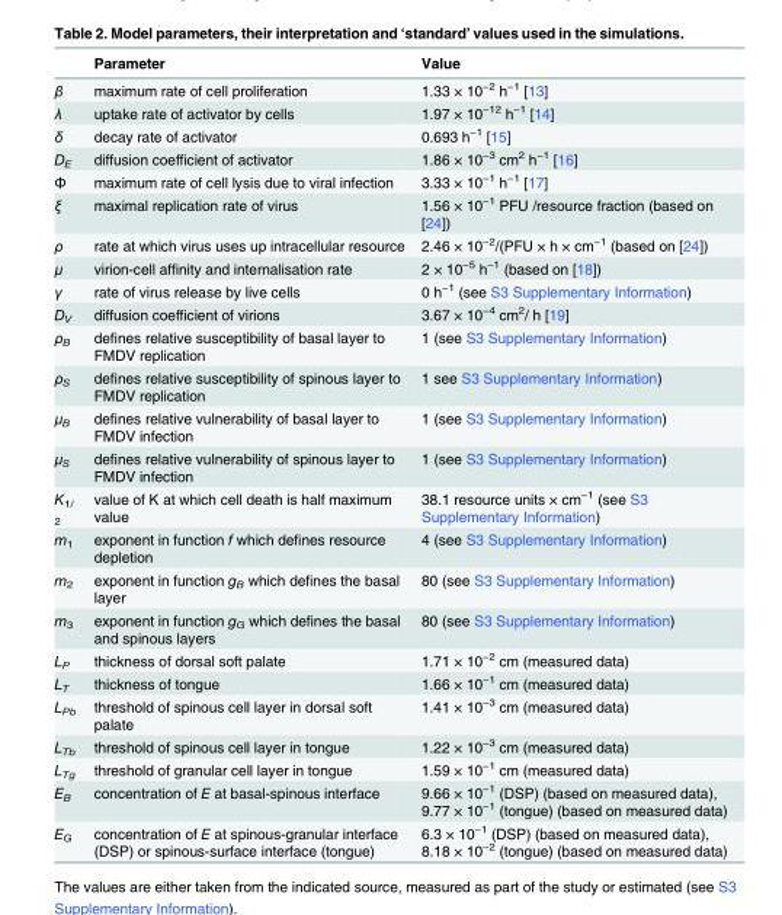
<table><thead><tr><td></td><td>Parameter</td><td>Value</td></tr></thead><tbody><tr><td>β</td><td>maximum rate of cell proliferation</td><td>1.33 × 10<sup>−2</sup> h<sup>−1</sup> [13]</td></tr><tr><td>λ</td><td>uptake rate of activator by cells</td><td>1.97 × 10<sup>−12</sup> h<sup>−1</sup> [14]</td></tr><tr><td>δ</td><td>decay rate of activator</td><td>0.693 h<sup>−1</sup> [15]</td></tr><tr><td>D<sub>E</sub></td><td>diffusion coefficient of activator</td><td>1.86 × 10<sup>−3</sup> cm<sup>2</sup> h<sup>−1</sup> [16]</td></tr><tr><td>Φ</td><td>maximum rate of cell lysis due to viral infection</td><td>3.33 × 10<sup>−1</sup> h<sup>−1</sup> [17]</td></tr><tr><td>ξ</td><td>maximal replication rate of virus</td><td>1.56 × 10<sup>−1</sup> PFU /resource fraction (based on [24])</td></tr><tr><td>ρ</td><td>rate at which virus uses up intracellular resource</td><td>2.46 × 10<sup>−2</sup>/(PFU × h × cm<sup>−1</sup> (based on [24])</td></tr><tr><td>μ</td><td>virion-cell affinity and internalisation rate</td><td>2 × 10<sup>−5</sup> h<sup>−1</sup> (based on [18])</td></tr><tr><td>γ</td><td>rate of virus release by live cells</td><td>0 h<sup>−1</sup> (see S3 Supplementary Information)</td></tr><tr><td>D<sub>V</sub></td><td>diffusion coefficient of virions</td><td>3.67 × 10<sup>−4</sup> cm<sup>2</sup>/ h [19]</td></tr><tr><td>ρ<sub>B</sub></td><td>defines relative susceptibility of basal layer to FMDV replication</td><td>1 (see S3 Supplementary Information)</td></tr><tr><td>ρ<sub>S</sub></td><td>defines relative susceptibility of spinous layer to FMDV replication</td><td>1 see S3 Supplementary Information)</td></tr><tr><td>μ<sub>B</sub></td><td>defines relative vulnerability of basal layer to FMDV infection</td><td>1 (see S3 Supplementary Information)</td></tr><tr><td>μ<sub>S</sub></td><td>defines relative vulnerability of spinous layer to FMDV infection</td><td>1 (see S3 Supplementary Information)</td></tr><tr><td>K<sub>1/ 2</sub></td><td>value of K at which cell death is half maximum value</td><td>38.1 resource units × cm<sup>−1</sup> (see S3 Supplementary Information)</td></tr><tr><td>m<sub>1</sub></td><td>exponent in function f which defines resource depletion</td><td>4 (see S3 Supplementary Information)</td></tr><tr><td>m<sub>2</sub></td><td>exponent in function g<sub>B</sub> which defines the basal layer</td><td>80 (see S3 Supplementary Information)</td></tr><tr><td>m<sub>3</sub></td><td>exponent in function g<sub>G</sub> which defines the basal and spinous layers</td><td>80 (see S3 Supplementary Information)</td></tr><tr><td>L<sub>P</sub></td><td>thickness of dorsal soft palate</td><td>1.71 × 10<sup>−2</sup> cm (measured data)</td></tr><tr><td>L<sub>T</sub></td><td>thickness of tongue</td><td>1.66 × 10<sup>−1</sup> cm (measured data)</td></tr><tr><td>L<sub>Pb</sub></td><td>threshold of spinous cell layer in dorsal soft palate</td><td>1.41 × 10<sup>−3</sup> cm (measured data)</td></tr><tr><td>L<sub>Tb</sub></td><td>threshold of spinous cell layer in tongue</td><td>1.22 × 10<sup>−3</sup> cm (measured data)</td></tr><tr><td>L<sub>Tg</sub></td><td>threshold of granular cell layer in tongue</td><td>1.59 × 10<sup>−1</sup> cm (measured data)</td></tr><tr><td>E<sub>B</sub></td><td>concentration of E at basal-spinous interface</td><td>9.66 × 10<sup>−1</sup> (DSP) (based on measured data), 9.77 × 10<sup>−1</sup> (tongue) (based on measured data)</td></tr><tr><td>E<sub>G</sub></td><td>concentration of E at spinous-granular interface (DSP) or spinous-surface interface (tongue)</td><td>6.3 × 10<sup>−1</sup> (DSP) (based on measured data), 8.18 × 10<sup>−2</sup> (tongue) (based on measured data)</td></tr></tbody></table>